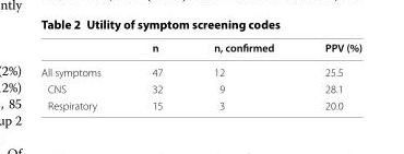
<table><thead><tr><td></td><td>n</td><td>n, confirmed</td><td>PPV (%)</td></tr></thead><tbody><tr><td>All symptoms</td><td>47</td><td>12</td><td>25.5</td></tr><tr><td>CNS</td><td>32</td><td>9</td><td>28.1</td></tr><tr><td>Respiratory</td><td>15</td><td>3</td><td>20.0</td></tr></tbody></table>